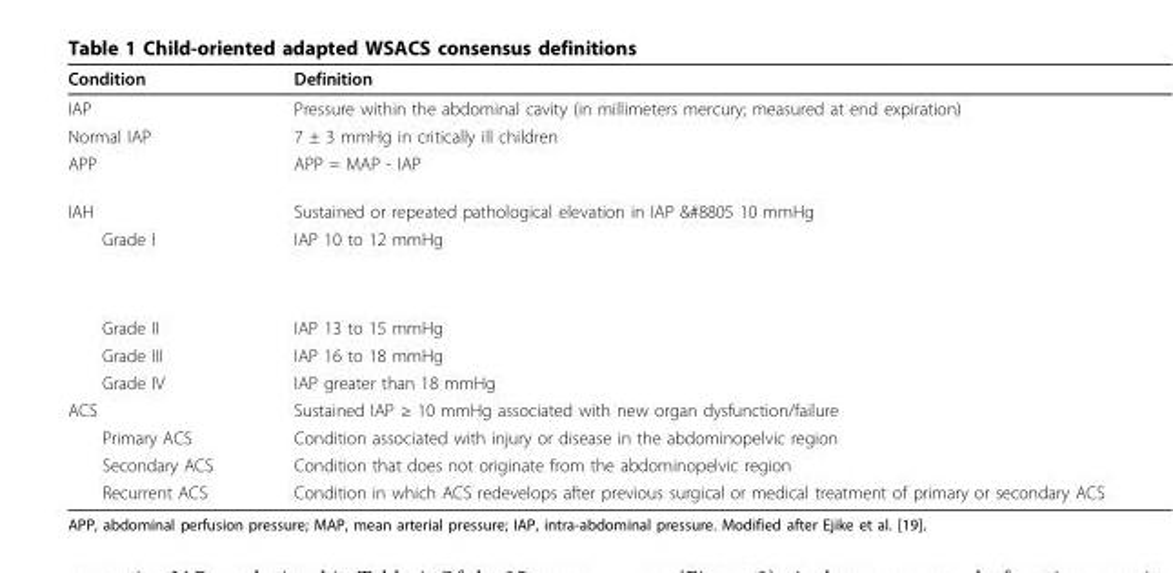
<table><thead><tr><td>Condition</td><td>Definition</td></tr></thead><tbody><tr><td>IAP</td><td>Pressure within the abdominal cavity (in millimeters mercury; measured at end expiration)</td></tr><tr><td>Normal IAP</td><td>7 ± 3 mmHg in critically ill children</td></tr><tr><td>APP</td><td>APP = MAP - IAP</td></tr><tr><td>IAH</td><td>Sustained or repeated pathological elevation in IAP &amp;#8805 10 mmHg</td></tr><tr><td>Grade I</td><td>IAP 10 to 12 mmHg</td></tr><tr><td>Grade II</td><td>IAP 13 to 15 mmHg</td></tr><tr><td>Grade III</td><td>IAP 16 to 18 mmHg</td></tr><tr><td>Grade IV</td><td>IAP greater than 18 mmHg</td></tr><tr><td>ACS</td><td>Sustained IAP ≥ 10 mmHg associated with new organ dysfunction/failure</td></tr><tr><td>Primary ACS</td><td>Condition associated with injury or disease in the abdominopelvic region</td></tr><tr><td>Secondary ACS</td><td>Condition that does not originate from the abdominopelvic region</td></tr><tr><td>Recurrent ACS</td><td>Condition in which ACS redevelops after previous surgical or medical treatment of primary or secondary ACS</td></tr></tbody></table>